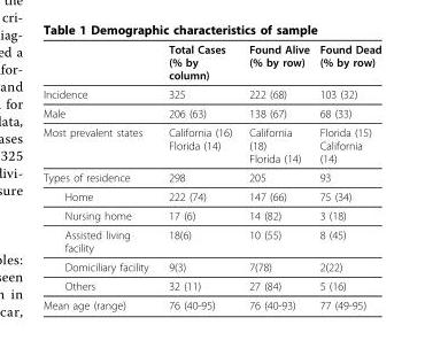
<table><thead><tr><td></td><td>Total Cases (% by column)</td><td>Found Alive (% by row)</td><td>Found Dead (% by row)</td></tr></thead><tbody><tr><td>Incidence</td><td>325</td><td>222 (68)</td><td>103 (32)</td></tr><tr><td>Male</td><td>206 (63)</td><td>138 (67)</td><td>68 (33)</td></tr><tr><td>Most prevalent states</td><td>California (16) Florida (14)</td><td>California (18) Florida (14)</td><td>Florida (15) California (14)</td></tr><tr><td>Types of residence</td><td>298</td><td>205</td><td>93</td></tr><tr><td>Home</td><td>222 (74)</td><td>147 (66)</td><td>75 (34)</td></tr><tr><td>Nursing home</td><td>17 (6)</td><td>14 (82)</td><td>3 (18)</td></tr><tr><td>Assisted living facility</td><td>18(6)</td><td>10 (55)</td><td>8 (45)</td></tr><tr><td>Domiciliary facility</td><td>9(3)</td><td>7(78)</td><td>2(22)</td></tr><tr><td>Others</td><td>32 (11)</td><td>27 (84)</td><td>5 (16)</td></tr><tr><td>Mean age (range)</td><td>76 (40-95)</td><td>76 (40-93)</td><td>77 (49-95)</td></tr></tbody></table>